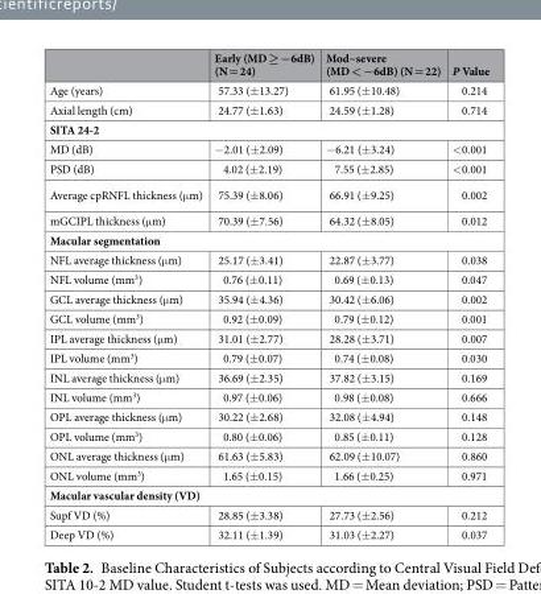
<table><thead><tr><td></td><td>Early (MD ≥ −6dB) (N = 24)</td><td>Mod~severe (MD &lt; −6dB) (N = 22)</td><td>P Value</td></tr></thead><tbody><tr><td>Age (years)</td><td>57.33 (±13.27)</td><td>61.95 (±10.48)</td><td>0.214</td></tr><tr><td>Axial length (cm)</td><td>24.77 (±1.63)</td><td>24.59 (±1.28)</td><td>0.714</td></tr><tr><td colspan="4">SITA 24-2</td></tr><tr><td>MD (dB)</td><td>−2.01 (±2.09)</td><td>−6.21 (±3.24)</td><td>&lt;0.001</td></tr><tr><td>PSD (dB)</td><td>4.02 (±2.19)</td><td>7.55 (±2.85)</td><td>&lt;0.001</td></tr><tr><td>Average cpRNFL thickness (μm)</td><td>75.39 (±8.06)</td><td>66.91 (±9.25)</td><td>0.002</td></tr><tr><td>mGCIPL thickness (μm)</td><td>70.39 (±7.56)</td><td>64.32 (±8.05)</td><td>0.012</td></tr><tr><td colspan="4">Macular segmentation</td></tr><tr><td>NFL average thickness (μm)</td><td>25.17 (±3.41)</td><td>22.87 (±3.77)</td><td>0.038</td></tr><tr><td>NFL volume (mm<sup>3</sup>)</td><td>0.76 (±0.11)</td><td>0.69 (±0.13)</td><td>0.047</td></tr><tr><td>GCL average thickness (μm)</td><td>35.94 (±4.36)</td><td>30.42 (±6.06)</td><td>0.002</td></tr><tr><td>GCL volume (mm<sup>3</sup>)</td><td>0.92 (±0.09)</td><td>0.79 (±0.12)</td><td>0.001</td></tr><tr><td>IPL average thickness (μm)</td><td>31.01 (±2.77)</td><td>28.28 (±3.71)</td><td>0.007</td></tr><tr><td>IPL volume (mm<sup>3</sup>)</td><td>0.79 (±0.07)</td><td>0.74 (±0.08)</td><td>0.030</td></tr><tr><td>INL average thickness (μm)</td><td>36.69 (±2.35)</td><td>37.82 (±3.15)</td><td>0.169</td></tr><tr><td>INL volume (mm<sup>3</sup>)</td><td>0.97 (±0.06)</td><td>0.98 (±0.08)</td><td>0.666</td></tr><tr><td>OPL average thickness (μm)</td><td>30.22 (±2.68)</td><td>32.08 (±4.94)</td><td>0.148</td></tr><tr><td>OPL volume (mm<sup>3</sup>)</td><td>0.80 (±0.06)</td><td>0.85 (±0.11)</td><td>0.128</td></tr><tr><td>ONL average thickness (μm)</td><td>61.63 (±5.83)</td><td>62.09 (±10.07)</td><td>0.860</td></tr><tr><td>ONL volume (mm<sup>3</sup>)</td><td>1.65 (±0.15)</td><td>1.66 (±0.25)</td><td>0.971</td></tr><tr><td colspan="4">Macular vascular density (VD)</td></tr><tr><td>Supf VD (%)</td><td>28.85 (±3.38)</td><td>27.73 (±2.56)</td><td>0.212</td></tr><tr><td>Deep VD (%)</td><td>32.11 (±1.39)</td><td>31.03 (±2.27)</td><td>0.037</td></tr></tbody></table>